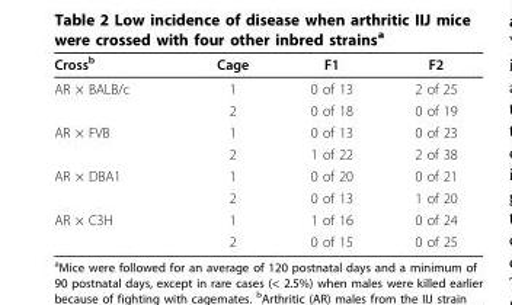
<table><thead><tr><td>Cross<sup>b</sup></td><td>Cage</td><td>F1</td><td>F2</td></tr></thead><tbody><tr><td rowspan="2">AR × BALB/c</td><td>1</td><td>0 of 13</td><td>2 of 25</td></tr><tr><td>2</td><td>0 of 18</td><td>0 of 19</td></tr><tr><td rowspan="2">AR × FVB</td><td>1</td><td>0 of 13</td><td>0 of 23</td></tr><tr><td>2</td><td>1 of 22</td><td>2 of 38</td></tr><tr><td rowspan="2">AR × DBA1</td><td>1</td><td>0 of 20</td><td>0 of 21</td></tr><tr><td>2</td><td>0 of 13</td><td>1 of 20</td></tr><tr><td rowspan="2">AR × C3H</td><td>1</td><td>1 of 16</td><td>0 of 24</td></tr><tr><td>2</td><td>0 of 15</td><td>0 of 25</td></tr></tbody></table>